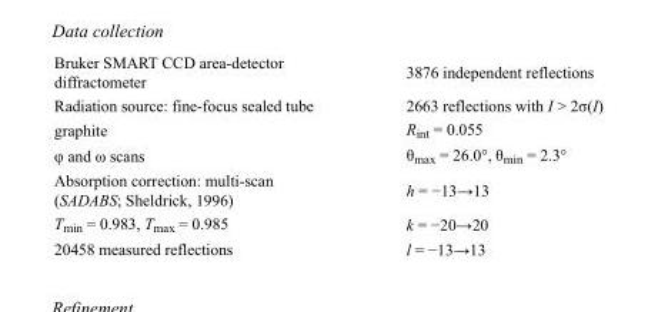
<table><tbody><tr><td>Bruker SMART CCD area-detector diffractometer</td><td>3876 independent reflections</td></tr><tr><td>Radiation source: fine-focus sealed tube</td><td>2663 reflections with I &gt; 2σ(I)</td></tr><tr><td>graphite</td><td>R<sub>int</sub> = 0.055</td></tr><tr><td>φ and ω scans</td><td>θ<sub>max</sub> = 26.0°, θ<sub>min</sub> = 2.3°</td></tr><tr><td>Absorption correction: multi-scan (SADABS; Sheldrick, 1996)</td><td>h = −13→13</td></tr><tr><td>T<sub>min</sub> = 0.983, T<sub>max</sub> = 0.985</td><td>k = −20→20</td></tr><tr><td>20458 measured reflections</td><td>l = −13→13</td></tr></tbody></table>